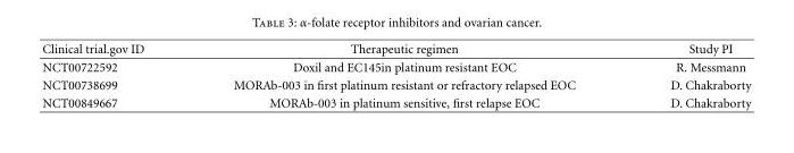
<table><thead><tr><td>Clinical trial.gov ID</td><td>Therapeutic regimen</td><td>Study PI</td></tr></thead><tbody><tr><td>NCT00722592</td><td>Doxil and EC145in platinum resistant EOC</td><td>R. Messmann</td></tr><tr><td>NCT00738699</td><td>MORAb-003 in first platinum resistant or refractory relapsed EOC</td><td>D. Chakraborty</td></tr><tr><td>NCT00849667</td><td>MORAb-003 in platinum sensitive, first relapse EOC</td><td>D. Chakraborty</td></tr></tbody></table>